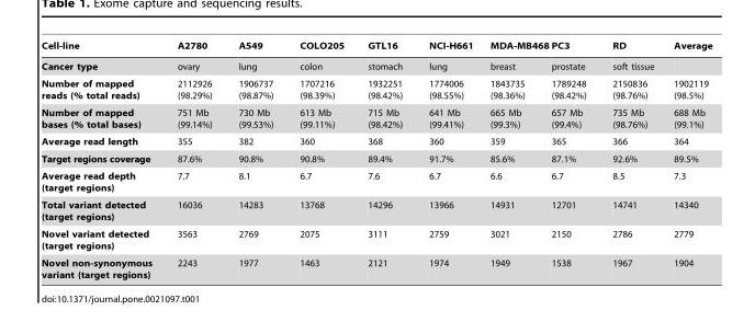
<table><thead><tr><td>Cell-line</td><td>A2780</td><td>A549</td><td>COLO205</td><td>GTL16</td><td>NCI-H661</td><td>MDA-MB468</td><td>PC3</td><td>RD</td><td>Average</td></tr></thead><tbody><tr><td>Cancer type</td><td>ovary</td><td>lung</td><td>colon</td><td>stomach</td><td>lung</td><td>breast</td><td>prostate</td><td>soft tissue</td><td></td></tr><tr><td>Number of mapped reads (% total reads)</td><td>2112926 (98.29%)</td><td>1906737 (98.87%)</td><td>1707216 (98.39%)</td><td>1932251 (98.42%)</td><td>1774006 (98.55%)</td><td>1843735 (98.36%)</td><td>1789248 (98.42%)</td><td>2150836 (98.76%)</td><td>1902119 (98.5%)</td></tr><tr><td>Number of mapped bases (% total bases)</td><td>751 Mb (99.14%)</td><td>730 Mb (99.53%)</td><td>613 Mb (99.11%)</td><td>715 Mb (98.42%)</td><td>641 Mb (99.41%)</td><td>665 Mb (99.3%)</td><td>657 Mb (99.4%)</td><td>735 Mb (98.76%)</td><td>688 Mb (99.1%)</td></tr><tr><td>Average read length</td><td>355</td><td>382</td><td>360</td><td>368</td><td>360</td><td>359</td><td>365</td><td>366</td><td>364</td></tr><tr><td>Target regions coverage</td><td>87.6%</td><td>90.8%</td><td>90.8%</td><td>89.4%</td><td>91.7%</td><td>85.6%</td><td>87.1%</td><td>92.6%</td><td>89.5%</td></tr><tr><td>Average read depth (target regions)</td><td>7.7</td><td>8.1</td><td>6.7</td><td>7.6</td><td>6.7</td><td>6.6</td><td>6.7</td><td>8.5</td><td>7.3</td></tr><tr><td>Total variant detected (target regions)</td><td>16036</td><td>14283</td><td>13768</td><td>14296</td><td>13966</td><td>14931</td><td>12701</td><td>14741</td><td>14340</td></tr><tr><td>Novel variant detected (target regions)</td><td>3563</td><td>2769</td><td>2075</td><td>3111</td><td>2759</td><td>3021</td><td>2150</td><td>2786</td><td>2779</td></tr><tr><td>Novel non-synonymous variant (target regions)</td><td>2243</td><td>1977</td><td>1463</td><td>2121</td><td>1974</td><td>1949</td><td>1538</td><td>1967</td><td>1904</td></tr></tbody></table>